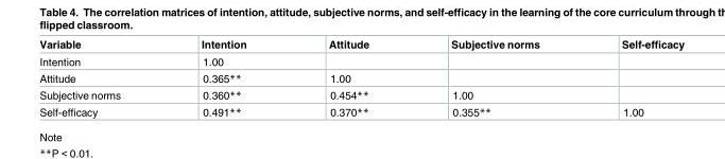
<table><thead><tr><td>Variable</td><td>Intention</td><td>Attitude</td><td>Subjective norms</td><td>Self-efficacy</td></tr></thead><tbody><tr><td>Intention</td><td>1.00</td><td></td><td></td><td></td></tr><tr><td>Attitude</td><td>0.365**</td><td>1.00</td><td></td><td></td></tr><tr><td>Subjective norms</td><td>0.360**</td><td>0.454**</td><td>1.00</td><td></td></tr><tr><td>Self-efficacy</td><td>0.491**</td><td>0.370**</td><td>0.355**</td><td>1.00</td></tr></tbody></table>